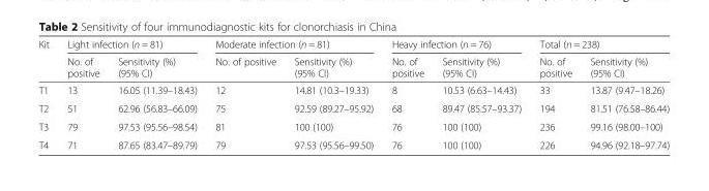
<table><thead><tr><td rowspan="2">Kit</td><td colspan="2">Light infection (n = 81)</td><td colspan="2">Moderate infection (n = 81)</td><td colspan="2">Heavy infection (n = 76)</td><td colspan="2">Total (n = 238)</td></tr><tr><td>No. of positive</td><td>Sensitivity (%) (95% CI)</td><td>No. of positive</td><td>Sensitivity (%) (95% CI)</td><td>No. of positive</td><td>Sensitivity (%) (95% CI)</td><td>No. of positive</td><td>Sensitivity (%) (95% CI)</td></tr></thead><tbody><tr><td>T1</td><td>13</td><td>16.05 (11.39–18.43)</td><td>12</td><td>14.81 (10.3–19.33)</td><td>8</td><td>10.53 (6.63–14.43)</td><td>33</td><td>13.87 (9.47–18.26)</td></tr><tr><td>T2</td><td>51</td><td>62.96 (56.83–66.09)</td><td>75</td><td>92.59 (89.27–95.92)</td><td>68</td><td>89.47 (85.57–93.37)</td><td>194</td><td>81.51 (76.58–86.44)</td></tr><tr><td>T3</td><td>79</td><td>97.53 (95.56–98.54)</td><td>81</td><td>100 (100)</td><td>76</td><td>100 (100)</td><td>236</td><td>99.16 (98.00–100)</td></tr><tr><td>T4</td><td>71</td><td>87.65 (83.47–89.79)</td><td>79</td><td>97.53 (95.56–99.50)</td><td>76</td><td>100 (100)</td><td>226</td><td>94.96 (92.18–97.74)</td></tr></tbody></table>